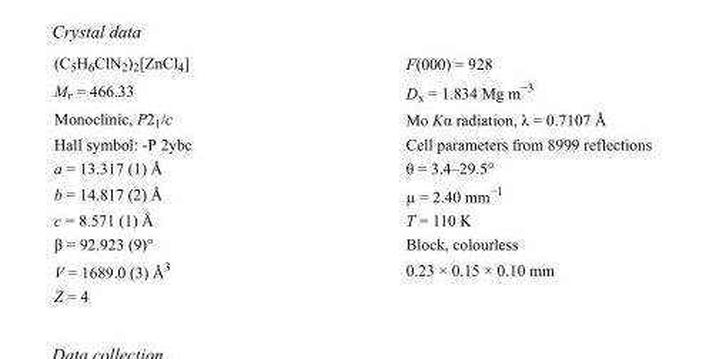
<table><tbody><tr><td>(C<sub>5</sub>H<sub>6</sub>ClN<sub>2</sub>)<sub>2</sub>[ZnCl<sub>4</sub>]</td><td>F(000) = 928</td></tr><tr><td>M<sub>r</sub> = 466.33</td><td>D<sub>x</sub> = 1.834 Mg m<sup>−3</sup></td></tr><tr><td>Monoclinic, P2<sub>1</sub>/c</td><td>Mo Kα radiation, λ = 0.7107 Å</td></tr><tr><td>Hall symbol: -P 2ybc</td><td>Cell parameters from 8999 reflections</td></tr><tr><td>a = 13.317 (1) Å</td><td>θ = 3.4–29.5°</td></tr><tr><td>b = 14.817 (2) Å</td><td>µ = 2.40 mm<sup>−1</sup></td></tr><tr><td>c = 8.571 (1) Å</td><td>T = 110 K</td></tr><tr><td>β = 92.923 (9)°</td><td>Block, colourless</td></tr><tr><td>V = 1689.0 (3) Å<sup>3</sup></td><td>0.23 × 0.15 × 0.10 mm</td></tr><tr><td>Z = 4</td><td></td></tr></tbody></table>